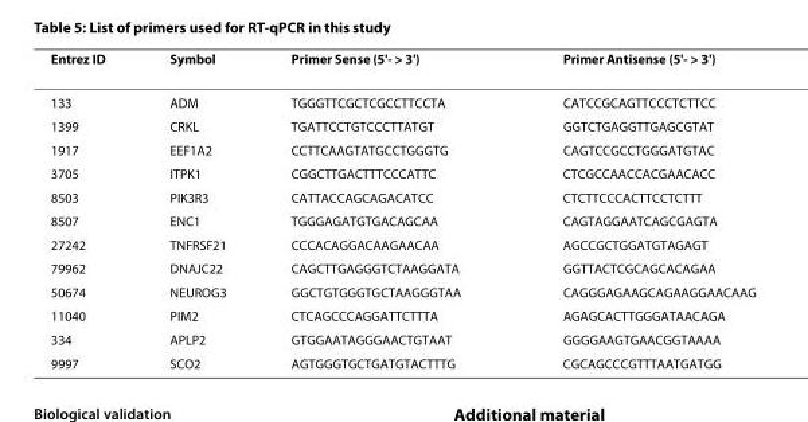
<table><thead><tr><td>Entrez ID</td><td>Symbol</td><td>Primer Sense (5&#x27;- &gt; 3&#x27;)</td><td>Primer Antisense (5&#x27;- &gt; 3&#x27;)</td></tr></thead><tbody><tr><td>133</td><td>ADM</td><td>TGGGTTCGCTCGCCTTCCTA</td><td>CATCCGCAGTTCCCTCTTCC</td></tr><tr><td>1399</td><td>CRKL</td><td>TGATTCCTGTCCCTTATGT</td><td>GGTCTGAGGTTGAGCGTAT</td></tr><tr><td>1917</td><td>EEF1A2</td><td>CCTTCAAGTATGCCTGGGTG</td><td>CAGTCCGCCTGGGATGTAC</td></tr><tr><td>3705</td><td>ITPK1</td><td>CGGCTTGACTTTCCCATTC</td><td>CTCGCCAACCACGAACACC</td></tr><tr><td>8503</td><td>PIK3R3</td><td>CATTACCAGCAGACATCC</td><td>CTCTTCCCACTTCCTCTTT</td></tr><tr><td>8507</td><td>ENC1</td><td>TGGGAGATGTGACAGCAA</td><td>CAGTAGGAATCAGCGAGTA</td></tr><tr><td>27242</td><td>TNFRSF21</td><td>CCCACAGGACAAGAACAA</td><td>AGCCGCTGGATGTAGAGT</td></tr><tr><td>79962</td><td>DNAJC22</td><td>CAGCTTGAGGGTCTAAGGATA</td><td>GGTTACTCGCAGCACAGAA</td></tr><tr><td>50674</td><td>NEUROG3</td><td>GGCTGTGGGTGCTAAGGGTAA</td><td>CAGGGAGAAGCAGAAGGAACAAG</td></tr><tr><td>11040</td><td>PIM2</td><td>CTCAGCCCAGGATTCTTTA</td><td>AGAGCACTTGGGATAACAGA</td></tr><tr><td>334</td><td>APLP2</td><td>GTGGAATAGGGAACTGTAAT</td><td>GGGGAAGTGAACGGTAAAA</td></tr><tr><td>9997</td><td>SCO2</td><td>AGTGGGTGCTGATGTACTTTG</td><td>CGCAGCCCGTTTAATGATGG</td></tr></tbody></table>